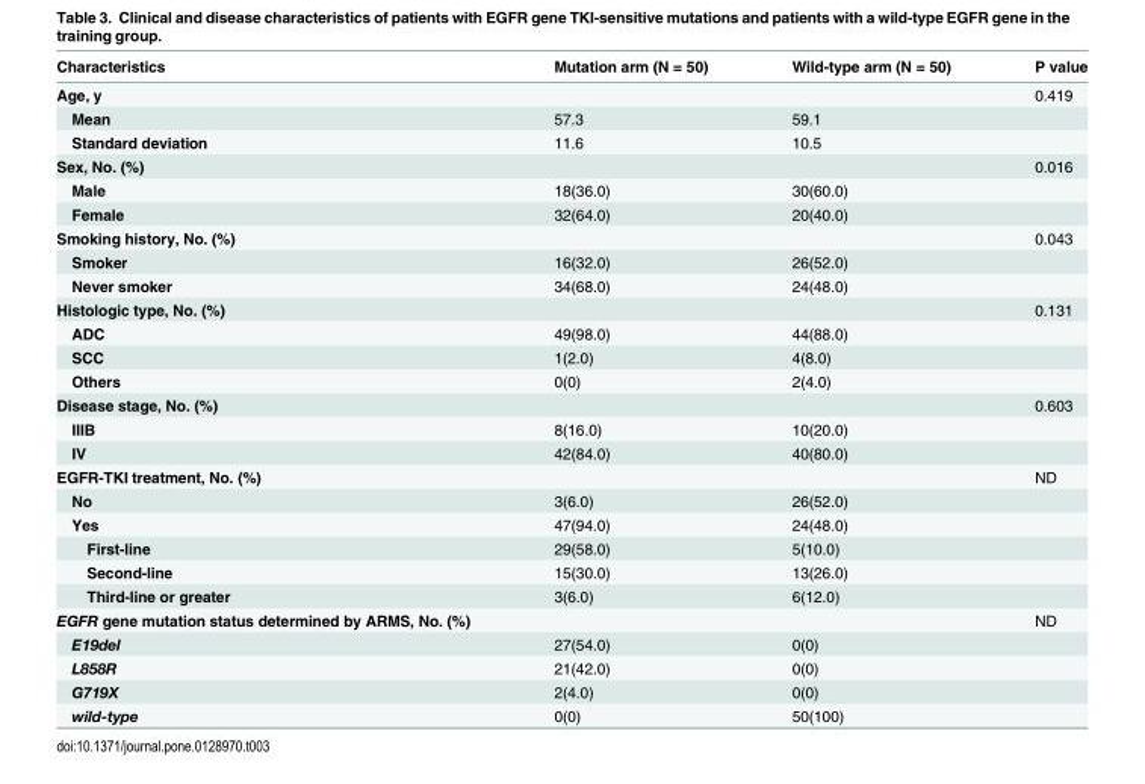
<table><thead><tr><td>Characteristics</td><td>Mutation arm (N = 50)</td><td>Wild-type arm (N = 50)</td><td>P value</td></tr></thead><tbody><tr><td>Age, y</td><td></td><td></td><td>0.419</td></tr><tr><td>Mean</td><td>57.3</td><td>59.1</td><td></td></tr><tr><td>Standard deviation</td><td>11.6</td><td>10.5</td><td></td></tr><tr><td>Sex, No. (%)</td><td></td><td></td><td>0.016</td></tr><tr><td>Male</td><td>18(36.0)</td><td>30(60.0)</td><td></td></tr><tr><td>Female</td><td>32(64.0)</td><td>20(40.0)</td><td></td></tr><tr><td>Smoking history, No. (%)</td><td></td><td></td><td>0.043</td></tr><tr><td>Smoker</td><td>16(32.0)</td><td>26(52.0)</td><td></td></tr><tr><td>Never smoker</td><td>34(68.0)</td><td>24(48.0)</td><td></td></tr><tr><td>Histologic type, No. (%)</td><td></td><td></td><td>0.131</td></tr><tr><td>ADC</td><td>49(98.0)</td><td>44(88.0)</td><td></td></tr><tr><td>SCC</td><td>1(2.0)</td><td>4(8.0)</td><td></td></tr><tr><td>Others</td><td>0(0)</td><td>2(4.0)</td><td></td></tr><tr><td>Disease stage, No. (%)</td><td></td><td></td><td>0.603</td></tr><tr><td>IIIB</td><td>8(16.0)</td><td>10(20.0)</td><td></td></tr><tr><td>IV</td><td>42(84.0)</td><td>40(80.0)</td><td></td></tr><tr><td>EGFR-TKI treatment, No. (%)</td><td></td><td></td><td>ND</td></tr><tr><td>No</td><td>3(6.0)</td><td>26(52.0)</td><td></td></tr><tr><td>Yes</td><td>47(94.0)</td><td>24(48.0)</td><td></td></tr><tr><td>First-line</td><td>29(58.0)</td><td>5(10.0)</td><td></td></tr><tr><td>Second-line</td><td>15(30.0)</td><td>13(26.0)</td><td></td></tr><tr><td>Third-line or greater</td><td>3(6.0)</td><td>6(12.0)</td><td></td></tr><tr><td>EGFR gene mutation status determined by ARMS, No. (%)</td><td></td><td></td><td>ND</td></tr><tr><td>E19del</td><td>27(54.0)</td><td>0(0)</td><td></td></tr><tr><td>L858R</td><td>21(42.0)</td><td>0(0)</td><td></td></tr><tr><td>G719X</td><td>2(4.0)</td><td>0(0)</td><td></td></tr><tr><td>wild-type</td><td>0(0)</td><td>50(100)</td><td></td></tr></tbody></table>